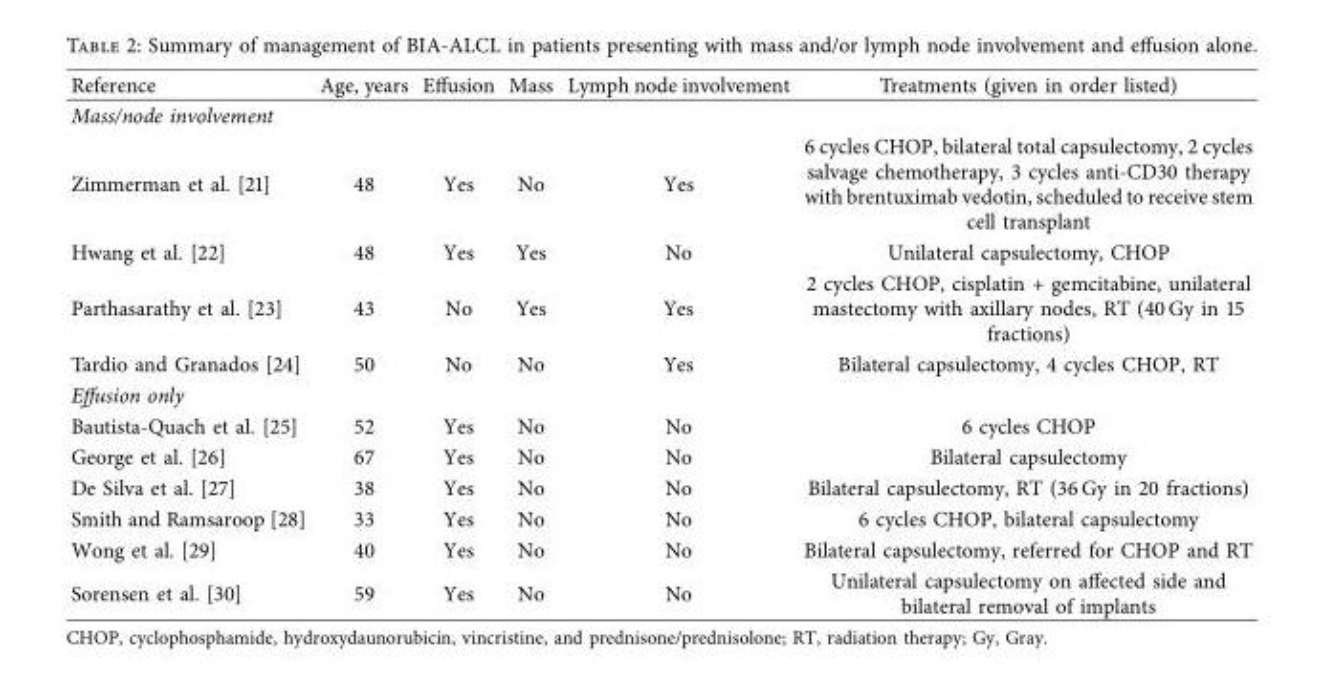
<table><thead><tr><td>Reference</td><td>Age, years</td><td>Efusion</td><td>Mass</td><td>Lymph node involvement</td><td>Treatments (given in order listed)</td></tr></thead><tbody><tr><td colspan="6">Mass/node involvement</td></tr><tr><td>Zimmerman et al. [21]</td><td>48</td><td>Yes</td><td>No</td><td>Yes</td><td>6 cycles CHOP, bilateral total capsulectomy, 2 cycles salvage chemotherapy, 3 cycles anti-CD30 therapy with brentuximab vedotin, scheduled to receive stem cell transplant</td></tr><tr><td>Hwang et al. [22]</td><td>48</td><td>Yes</td><td>Yes</td><td>No</td><td>Unilateral capsulectomy, CHOP</td></tr><tr><td>Parthasarathy et al. [23]</td><td>43</td><td>No</td><td>Yes</td><td>Yes</td><td>2 cycles CHOP, cisplatin + gemcitabine, unilateral mastectomy with axillary nodes, RT (40 Gy in 15 fractions)</td></tr><tr><td>Tardio and Granados [24]</td><td>50</td><td>No</td><td>No</td><td>Yes</td><td>Bilateral capsulectomy, 4 cycles CHOP, RT</td></tr><tr><td colspan="6">Efusion only</td></tr><tr><td>Bautista-Quach et al. [25]</td><td>52</td><td>Yes</td><td>No</td><td>No</td><td>6 cycles CHOP</td></tr><tr><td>George et al. [26]</td><td>67</td><td>Yes</td><td>No</td><td>No</td><td>Bilateral capsulectomy</td></tr><tr><td>De Silva et al. [27]</td><td>38</td><td>Yes</td><td>No</td><td>No</td><td>Bilateral capsulectomy, RT (36 Gy in 20 fractions)</td></tr><tr><td>Smith and Ramsaroop [28]</td><td>33</td><td>Yes</td><td>No</td><td>No</td><td>6 cycles CHOP, bilateral capsulectomy</td></tr><tr><td>Wong et al. [29]</td><td>40</td><td>Yes</td><td>No</td><td>No</td><td>Bilateral capsulectomy, referred for CHOP and RT</td></tr><tr><td>Sorensen et al. [30]</td><td>59</td><td>Yes</td><td>No</td><td>No</td><td>Unilateral capsulectomy on afected side and bilateral removal of implants</td></tr></tbody></table>